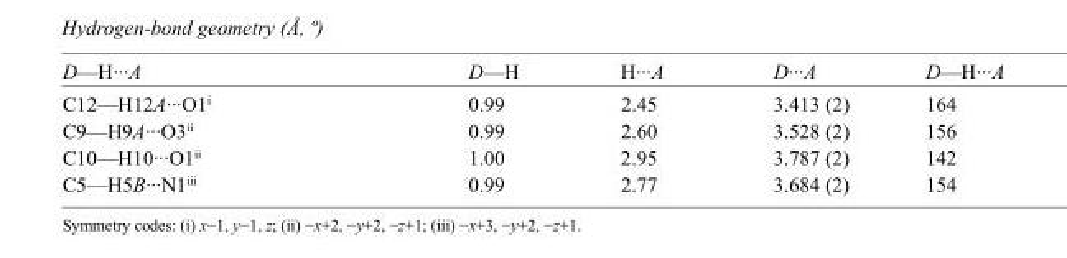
<table><tbody><tr><td>D—H···A</td><td>D—H</td><td>H···A</td><td>D···A</td><td>D—H···A</td></tr><tr><td>C12—H12A···O1<sup>i</sup></td><td>0.99</td><td>2.45</td><td>3.413 (2)</td><td>164</td></tr><tr><td>C9—H9A···O3<sup>ii</sup></td><td>0.99</td><td>2.60</td><td>3.528 (2)</td><td>156</td></tr><tr><td>C10—H10···O1<sup>ii</sup></td><td>1.00</td><td>2.95</td><td>3.787 (2)</td><td>142</td></tr><tr><td>C5—H5B···N1<sup>iii</sup></td><td>0.99</td><td>2.77</td><td>3.684 (2)</td><td>154</td></tr></tbody></table>